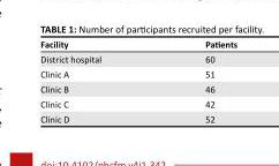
<table><thead><tr><td>Facility</td><td>Patients</td></tr></thead><tbody><tr><td>District hospital</td><td>60</td></tr><tr><td>Clinic A</td><td>51</td></tr><tr><td>Clinic B</td><td>46</td></tr><tr><td>Clinic C</td><td>42</td></tr><tr><td>Clinic D</td><td>52</td></tr></tbody></table>